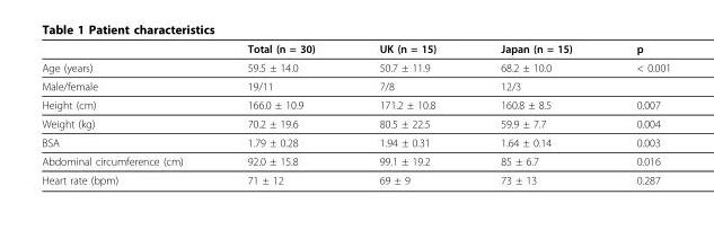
<table><thead><tr><td></td><td>Total (n = 30)</td><td>UK (n = 15)</td><td>Japan (n = 15)</td><td>p</td></tr></thead><tbody><tr><td>Age (years)</td><td>59.5 ± 14.0</td><td>50.7 ± 11.9</td><td>68.2 ± 10.0</td><td>&lt; 0.001</td></tr><tr><td>Male/female</td><td>19/11</td><td>7/8</td><td>12/3</td><td></td></tr><tr><td>Height (cm)</td><td>166.0 ± 10.9</td><td>171.2 ± 10.8</td><td>160.8 ± 8.5</td><td>0.007</td></tr><tr><td>Weight (kg)</td><td>70.2 ± 19.6</td><td>80.5 ± 22.5</td><td>59.9 ± 7.7</td><td>0.004</td></tr><tr><td>BSA</td><td>1.79 ± 0.28</td><td>1.94 ± 0.31</td><td>1.64 ± 0.14</td><td>0.003</td></tr><tr><td>Abdominal circumference (cm)</td><td>92.0 ± 15.8</td><td>99.1 ± 19.2</td><td>85 ± 6.7</td><td>0.016</td></tr><tr><td>Heart rate (bpm)</td><td>71 ± 12</td><td>69 ± 9</td><td>73 ± 13</td><td>0.287</td></tr></tbody></table>